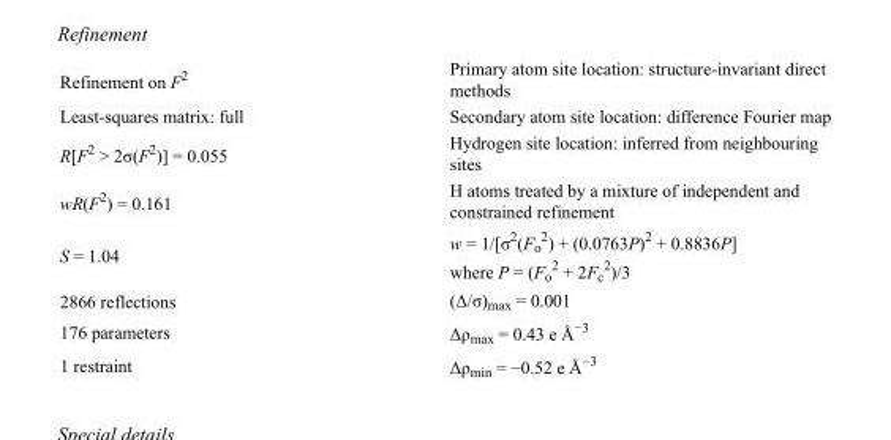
<table><tbody><tr><td>Refinement on F<sup>2</sup></td><td>Primary atom site location: structure-invariant direct methods</td></tr><tr><td>Least-squares matrix: full</td><td>Secondary atom site location: difference Fourier map</td></tr><tr><td>R[F<sup>2</sup> &gt; 2σ(F<sup>2</sup>)] = 0.055</td><td>Hydrogen site location: inferred from neighbouring sites</td></tr><tr><td>wR(F<sup>2</sup>) = 0.161</td><td>H atoms treated by a mixture of independent and constrained refinement</td></tr><tr><td>S = 1.04</td><td>w = 1/[σ<sup>2</sup>(F<sub>o</sub> <sup>2</sup>) + (0.0763P)<sup>2</sup> + 0.8836P] where P = (F<sub>o</sub> <sup>2</sup> + 2F<sub>c</sub> <sup>2</sup>)/3</td></tr><tr><td>2866 reflections</td><td>(Δ/σ)<sub>max</sub> = 0.001</td></tr><tr><td>176 parameters</td><td>Δρ<sub>max</sub> = 0.43 e Å<sup>−3</sup></td></tr><tr><td>1 restraint</td><td>Δρ<sub>min</sub> = −0.52 e Å<sup>−3</sup></td></tr></tbody></table>